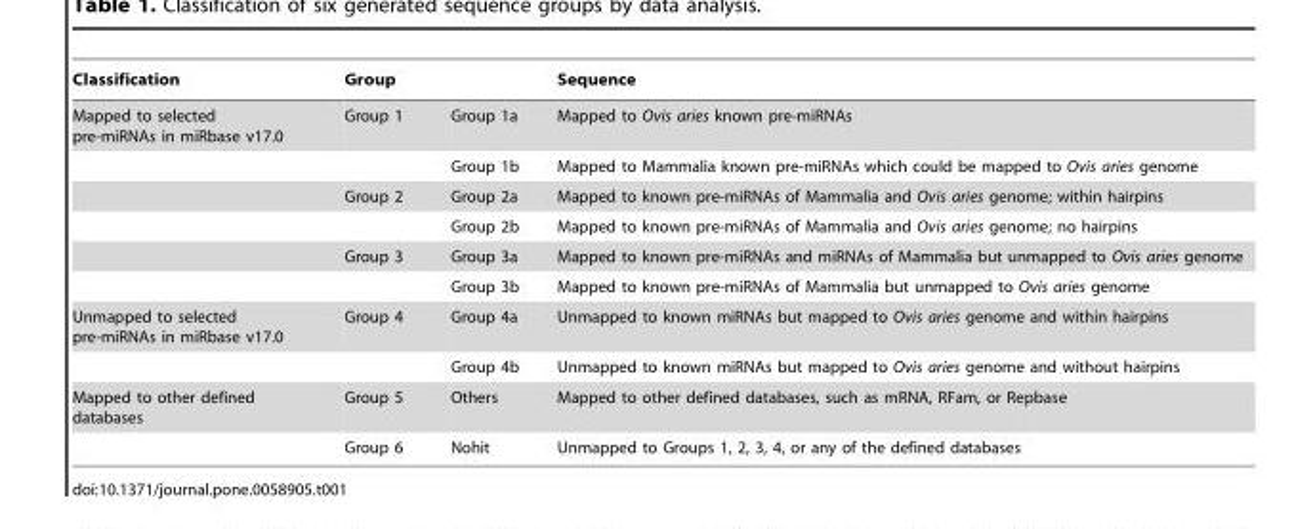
<table><thead><tr><td>Classification</td><td>Group</td><td></td><td>Sequence</td></tr></thead><tbody><tr><td rowspan="6">Mapped to selected pre-miRNAs in miRbase v17.0</td><td>Group 1</td><td>Group 1a</td><td>Mapped to Ovis aries known pre-miRNAs</td></tr><tr><td></td><td>Group 1b</td><td>Mapped to Mammalia known pre-miRNAs which could be mapped to Ovis aries genome</td></tr><tr><td>Group 2</td><td>Group 2a</td><td>Mapped to known pre-miRNAs of Mammalia and Ovis aries genome; within hairpins</td></tr><tr><td></td><td>Group 2b</td><td>Mapped to known pre-miRNAs of Mammalia and Ovis aries genome; no hairpins</td></tr><tr><td>Group 3</td><td>Group 3a</td><td>Mapped to known pre-miRNAs and miRNAs of Mammalia but unmapped to Ovis aries genome</td></tr><tr><td></td><td>Group 3b</td><td>Mapped to known pre-miRNAs of Mammalia but unmapped to Ovis aries genome</td></tr><tr><td rowspan="2">Unmapped to selected pre-miRNAs in miRbase v17.0</td><td>Group 4</td><td>Group 4a</td><td>Unmapped to known miRNAs but mapped to Ovis aries genome and within hairpins</td></tr><tr><td></td><td>Group 4b</td><td>Unmapped to known miRNAs but mapped to Ovis aries genome and without hairpins</td></tr><tr><td rowspan="2">Mapped to other defined databases</td><td>Group 5</td><td>Others</td><td>Mapped to other defined databases, such as mRNA, RFam, or Repbase</td></tr><tr><td>Group 6</td><td>Nohit</td><td>Unmapped to Groups 1, 2, 3, 4, or any of the defined databases</td></tr></tbody></table>